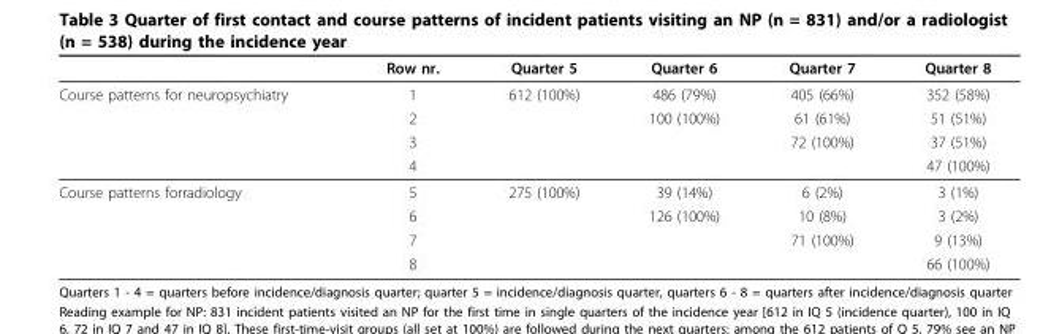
<table><thead><tr><td></td><td>Row nr.</td><td>Quarter 5</td><td>Quarter 6</td><td>Quarter 7</td><td>Quarter 8</td></tr></thead><tbody><tr><td rowspan="4">Course patterns for neuropsychiatry</td><td>1</td><td>612 (100%)</td><td>486 (79%)</td><td>405 (66%)</td><td>352 (58%)</td></tr><tr><td>2</td><td></td><td>100 (100%)</td><td>61 (61%)</td><td>51 (51%)</td></tr><tr><td>3</td><td></td><td></td><td>72 (100%)</td><td>37 (51%)</td></tr><tr><td>4</td><td></td><td></td><td></td><td>47 (100%)</td></tr><tr><td rowspan="4">Course patterns forradiology</td><td>5</td><td>275 (100%)</td><td>39 (14%)</td><td>6 (2%)</td><td>3 (1%)</td></tr><tr><td>6</td><td></td><td>126 (100%)</td><td>10 (8%)</td><td>3 (2%)</td></tr><tr><td>7</td><td></td><td></td><td>71 (100%)</td><td>9 (13%)</td></tr><tr><td>8</td><td></td><td></td><td></td><td>66 (100%)</td></tr></tbody></table>